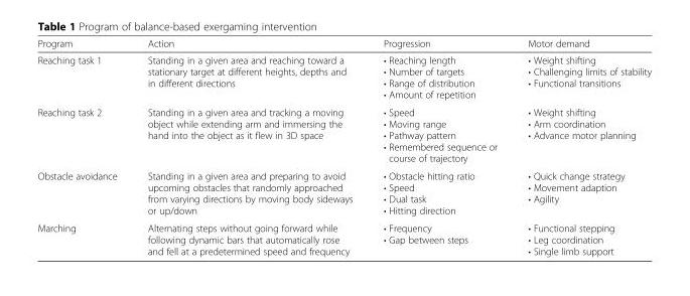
<table><thead><tr><td>Program</td><td>Action</td><td>Progression</td><td>Motor demand</td></tr></thead><tbody><tr><td>Reaching task 1</td><td>Standing in a given area and reaching toward a stationary target at different heights, depths and in different directions</td><td>• Reaching length • Number of targets • Range of distribution • Amount of repetition</td><td>• Weight shifting • Challenging limits of stability • Functional transitions</td></tr><tr><td>Reaching task 2</td><td>Standing in a given area and tracking a moving object while extending arm and immersing the hand into the object as it flew in 3D space</td><td>• Speed • Moving range • Pathway pattern • Remembered sequence or course of trajectory</td><td>• Weight shifting • Arm coordination • Advance motor planning</td></tr><tr><td>Obstacle avoidance</td><td>Standing in a given area and preparing to avoid upcoming obstacles that randomly approached from varying directions by moving body sideways or up/down</td><td>• Obstacle hitting ratio • Speed • Dual task • Hitting direction</td><td>• Quick change strategy • Movement adaption • Agility</td></tr><tr><td>Marching</td><td>Alternating steps without going forward while following dynamic bars that automatically rose and fell at a predetermined speed and frequency</td><td>• Frequency • Gap between steps</td><td>• Functional stepping • Leg coordination • Single limb support</td></tr></tbody></table>